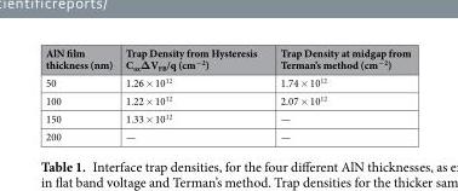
<table><thead><tr><td>AlN film thickness (nm)</td><td>Trap Density from Hysteresis C<sub>ox</sub>ΔV<sub>FB</sub>/q (cm<sup>−2</sup>)</td><td>Trap Density at midgap from Terman’s method (cm<sup>−2</sup>)</td></tr></thead><tbody><tr><td>50</td><td>1.26 × 10<sup>12</sup></td><td>1.74 × 10<sup>12</sup></td></tr><tr><td>100</td><td>1.22 × 10<sup>12</sup></td><td>2.07 × 10<sup>12</sup></td></tr><tr><td>150</td><td>1.33 × 10<sup>12</sup></td><td>—</td></tr><tr><td>200</td><td>—</td><td>—</td></tr></tbody></table>